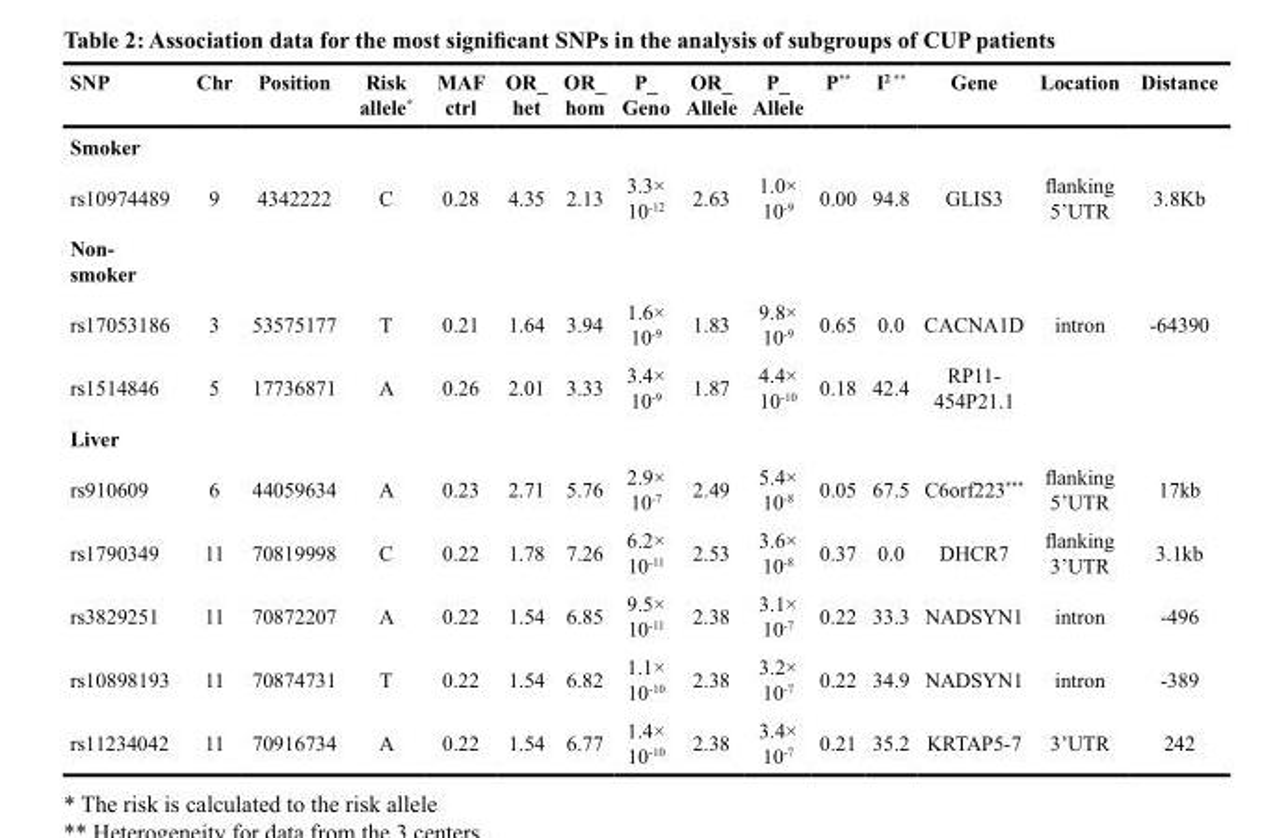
<table><thead><tr><td>SNP</td><td>Chr</td><td>Position</td><td>Risk allele*</td><td>MAF ctrl</td><td>OR_ het</td><td>OR_ hom</td><td>P_ Geno</td><td>OR_ Allele</td><td>P_ Allele</td><td>P**</td><td>I<sup>2</sup> **</td><td>Gene</td><td>Location</td><td>Distance</td></tr></thead><tbody><tr><td colspan="15">Smoker</td></tr><tr><td>rs10974489</td><td>9</td><td>4342222</td><td>C</td><td>0.28</td><td>4.35</td><td>2.13</td><td>3.3× 10<sup>-12</sup></td><td>2.63</td><td>1.0× 10<sup>-9</sup></td><td>0.00</td><td>94.8</td><td>GLIS3</td><td>flanking 5’UTR</td><td>3.8Kb</td></tr><tr><td colspan="15">Non- smoker</td></tr><tr><td>rs17053186</td><td>3</td><td>53575177</td><td>T</td><td>0.21</td><td>1.64</td><td>3.94</td><td>1.6× 10<sup>-9</sup></td><td>1.83</td><td>9.8× 10<sup>-9</sup></td><td>0.65</td><td>0.0</td><td>CACNA1D</td><td>intron</td><td>-64390</td></tr><tr><td>rs1514846</td><td>5</td><td>17736871</td><td>A</td><td>0.26</td><td>2.01</td><td>3.33</td><td>3.4× 10<sup>-9</sup></td><td>1.87</td><td>4.4× 10<sup>-10</sup></td><td>0.18</td><td>42.4</td><td>RP11- 454P21.1</td><td></td><td></td></tr><tr><td colspan="15">Liver</td></tr><tr><td>rs910609</td><td>6</td><td>44059634</td><td>A</td><td>0.23</td><td>2.71</td><td>5.76</td><td>2.9× 10<sup>-7</sup></td><td>2.49</td><td>5.4× 10<sup>-8</sup></td><td>0.05</td><td>67.5</td><td>C6orf223***</td><td>flanking 5’UTR</td><td>17kb</td></tr><tr><td>rs1790349</td><td>11</td><td>70819998</td><td>C</td><td>0.22</td><td>1.78</td><td>7.26</td><td>6.2× 10<sup>-11</sup></td><td>2.53</td><td>3.6× 10<sup>-8</sup></td><td>0.37</td><td>0.0</td><td>DHCR7</td><td>flanking 3’UTR</td><td>3.1kb</td></tr><tr><td>rs3829251</td><td>11</td><td>70872207</td><td>A</td><td>0.22</td><td>1.54</td><td>6.85</td><td>9.5× 10<sup>-11</sup></td><td>2.38</td><td>3.1× 10<sup>-7</sup></td><td>0.22</td><td>33.3</td><td>NADSYN1</td><td>intron</td><td>-496</td></tr><tr><td>rs10898193</td><td>11</td><td>70874731</td><td>T</td><td>0.22</td><td>1.54</td><td>6.82</td><td>1.1× 10<sup>-10</sup></td><td>2.38</td><td>3.2× 10<sup>-7</sup></td><td>0.22</td><td>34.9</td><td>NADSYN1</td><td>intron</td><td>-389</td></tr><tr><td>rs11234042</td><td>11</td><td>70916734</td><td>A</td><td>0.22</td><td>1.54</td><td>6.77</td><td>1.4× 10<sup>-10</sup></td><td>2.38</td><td>3.4× 10<sup>-7</sup></td><td>0.21</td><td>35.2</td><td>KRTAP5-7</td><td>3’UTR</td><td>242</td></tr></tbody></table>